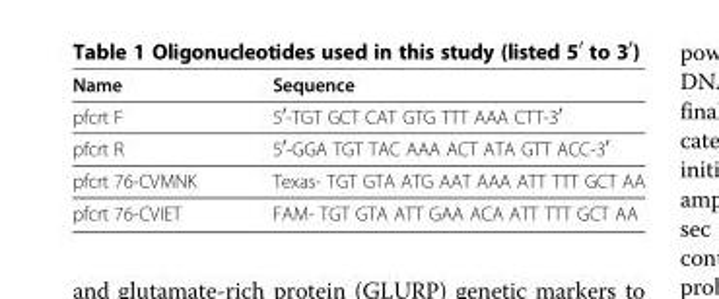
<table><thead><tr><td>Name</td><td>Sequence</td></tr></thead><tbody><tr><td>pfcrt F</td><td>5′-TGT GCT CAT GTG TTT AAA CTT-3′</td></tr><tr><td>pfcrt R</td><td>5′-GGA TGT TAC AAA ACT ATA GTT ACC-3′</td></tr><tr><td>pfcrt 76-CVMNK</td><td>Texas- TGT GTA ATG AAT AAA ATT TTT GCT AA</td></tr><tr><td>pfcrt 76-CVIET</td><td>FAM- TGT GTA ATT GAA ACA ATT TTT GCT AA</td></tr></tbody></table>